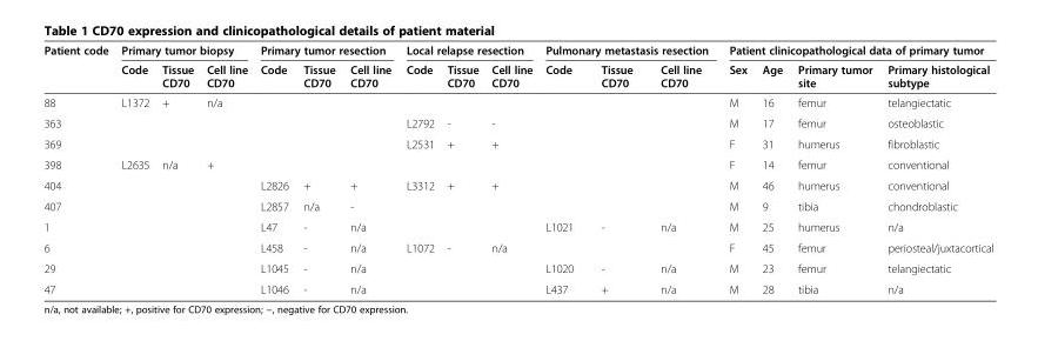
<table><thead><tr><td rowspan="2">Patient code</td><td colspan="3">Primary tumor biopsy</td><td colspan="3">Primary tumor resection</td><td colspan="3">Local relapse resection</td><td colspan="3">Pulmonary metastasis resection</td><td colspan="4">Patient clinicopathological data of primary tumor</td></tr><tr><td>Code</td><td>Tissue CD70</td><td>Cell line CD70</td><td>Code</td><td>Tissue CD70</td><td>Cell line CD70</td><td>Code</td><td>Tissue CD70</td><td>Cell line CD70</td><td>Code</td><td>Tissue CD70</td><td>Cell line CD70</td><td>Sex</td><td>Age</td><td>Primary tumor site</td><td>Primary histological subtype</td></tr></thead><tbody><tr><td>88</td><td>L1372</td><td>+</td><td>n/a</td><td></td><td></td><td></td><td></td><td></td><td></td><td></td><td></td><td></td><td>M</td><td>16</td><td>femur</td><td>telangiectatic</td></tr><tr><td>363</td><td></td><td></td><td></td><td></td><td></td><td></td><td>L2792</td><td>-</td><td>-</td><td></td><td></td><td></td><td>M</td><td>17</td><td>femur</td><td>osteoblastic</td></tr><tr><td>369</td><td></td><td></td><td></td><td></td><td></td><td></td><td>L2531</td><td>+</td><td>+</td><td></td><td></td><td></td><td>F</td><td>31</td><td>humerus</td><td>fibroblastic</td></tr><tr><td>398</td><td>L2635</td><td>n/a</td><td>+</td><td></td><td></td><td></td><td></td><td></td><td></td><td></td><td></td><td></td><td>F</td><td>14</td><td>femur</td><td>conventional</td></tr><tr><td>404</td><td></td><td></td><td></td><td>L2826</td><td>+</td><td>+</td><td>L3312</td><td>+</td><td>+</td><td></td><td></td><td></td><td>M</td><td>46</td><td>humerus</td><td>conventional</td></tr><tr><td>407</td><td></td><td></td><td></td><td>L2857</td><td>n/a</td><td>-</td><td></td><td></td><td></td><td></td><td></td><td></td><td>M</td><td>9</td><td>tibia</td><td>chondroblastic</td></tr><tr><td>1</td><td></td><td></td><td></td><td>L47</td><td>-</td><td>n/a</td><td></td><td></td><td></td><td>L1021</td><td>-</td><td>n/a</td><td>M</td><td>25</td><td>humerus</td><td>n/a</td></tr><tr><td>6</td><td></td><td></td><td></td><td>L458</td><td>-</td><td>n/a</td><td>L1072</td><td>-</td><td>n/a</td><td></td><td></td><td></td><td>F</td><td>45</td><td>femur</td><td>periosteal/juxtacortical</td></tr><tr><td>29</td><td></td><td></td><td></td><td>L1045</td><td>-</td><td>n/a</td><td></td><td></td><td></td><td>L1020</td><td>-</td><td>n/a</td><td>M</td><td>23</td><td>femur</td><td>telangiectatic</td></tr><tr><td>47</td><td></td><td></td><td></td><td>L1046</td><td>-</td><td>n/a</td><td></td><td></td><td></td><td>L437</td><td>+</td><td>n/a</td><td>M</td><td>28</td><td>tibia</td><td>n/a</td></tr></tbody></table>